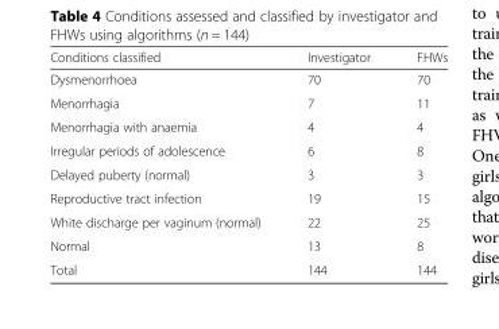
<table><thead><tr><td>Conditions classified</td><td>Investigator</td><td>FHWs</td></tr></thead><tbody><tr><td>Dysmenorrhoea</td><td>70</td><td>70</td></tr><tr><td>Menorrhagia</td><td>7</td><td>11</td></tr><tr><td>Menorrhagia with anaemia</td><td>4</td><td>4</td></tr><tr><td>Irregular periods of adolescence</td><td>6</td><td>8</td></tr><tr><td>Delayed puberty (normal)</td><td>3</td><td>3</td></tr><tr><td>Reproductive tract infection</td><td>19</td><td>15</td></tr><tr><td>White discharge per vaginum (normal)</td><td>22</td><td>25</td></tr><tr><td>Normal</td><td>13</td><td>8</td></tr><tr><td>Total</td><td>144</td><td>144</td></tr></tbody></table>